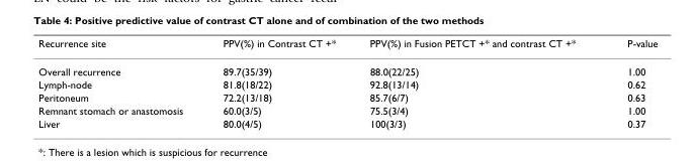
<table><thead><tr><td>Recurrence site</td><td>PPV(%) in Contrast CT +*</td><td>PPV(%) in Fusion PETCT +* and contrast CT +*</td><td>P-value</td></tr></thead><tbody><tr><td>Overall recurrence</td><td>89.7(35/39)</td><td>88.0(22/25)</td><td>1.00</td></tr><tr><td>Lymph-node</td><td>81.8(18/22)</td><td>92.8(13/14)</td><td>0.62</td></tr><tr><td>Peritoneum</td><td>72.2(13/18)</td><td>85.7(6/7)</td><td>0.63</td></tr><tr><td>Remnant stomach or anastomosis</td><td>60.0(3/5)</td><td>75.5(3/4)</td><td>1.00</td></tr><tr><td>Liver</td><td>80.0(4/5)</td><td>100(3/3)</td><td>0.37</td></tr></tbody></table>